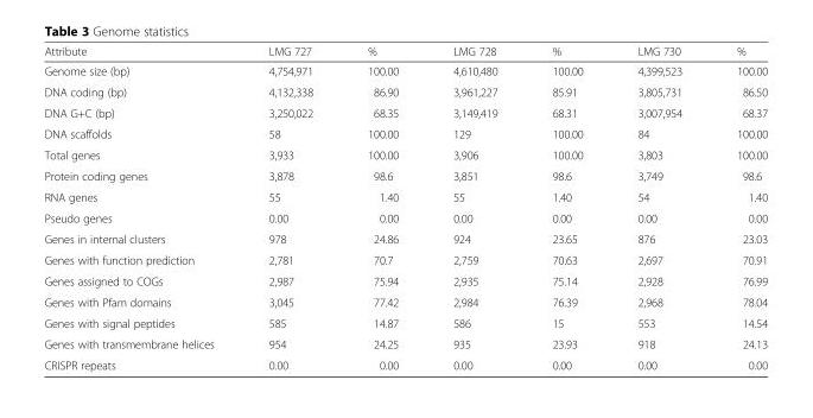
<table><thead><tr><td>Attribute</td><td>LMG 727</td><td>%</td><td>LMG 728</td><td>%</td><td>LMG 730</td><td>%</td></tr></thead><tbody><tr><td>Genome size (bp)</td><td>4,754,971</td><td>100.00</td><td>4,610,480</td><td>100.00</td><td>4,399,523</td><td>100.00</td></tr><tr><td>DNA coding (bp)</td><td>4,132,338</td><td>86.90</td><td>3,961,227</td><td>85.91</td><td>3,805,731</td><td>86.50</td></tr><tr><td>DNA G+C (bp)</td><td>3,250,022</td><td>68.35</td><td>3,149,419</td><td>68.31</td><td>3,007,954</td><td>68.37</td></tr><tr><td>DNA scaffolds</td><td>58</td><td>100.00</td><td>129</td><td>100.00</td><td>84</td><td>100.00</td></tr><tr><td>Total genes</td><td>3,933</td><td>100.00</td><td>3,906</td><td>100.00</td><td>3,803</td><td>100.00</td></tr><tr><td>Protein coding genes</td><td>3,878</td><td>98.6</td><td>3,851</td><td>98.6</td><td>3,749</td><td>98.6</td></tr><tr><td>RNA genes</td><td>55</td><td>1.40</td><td>55</td><td>1.40</td><td>54</td><td>1.40</td></tr><tr><td>Pseudo genes</td><td>0.00</td><td>0.00</td><td>0.00</td><td>0.00</td><td>0.00</td><td>0.00</td></tr><tr><td>Genes in internal clusters</td><td>978</td><td>24.86</td><td>924</td><td>23.65</td><td>876</td><td>23.03</td></tr><tr><td>Genes with function prediction</td><td>2,781</td><td>70.7</td><td>2,759</td><td>70.63</td><td>2,697</td><td>70.91</td></tr><tr><td>Genes assigned to COGs</td><td>2,987</td><td>75.94</td><td>2,935</td><td>75.14</td><td>2,928</td><td>76.99</td></tr><tr><td>Genes with Pfam domains</td><td>3,045</td><td>77.42</td><td>2,984</td><td>76.39</td><td>2,968</td><td>78.04</td></tr><tr><td>Genes with signal peptides</td><td>585</td><td>14.87</td><td>586</td><td>15</td><td>553</td><td>14.54</td></tr><tr><td>Genes with transmembrane helices</td><td>954</td><td>24.25</td><td>935</td><td>23.93</td><td>918</td><td>24.13</td></tr><tr><td>CRISPR repeats</td><td>0.00</td><td>0.00</td><td>0.00</td><td>0.00</td><td>0.00</td><td>0.00</td></tr></tbody></table>